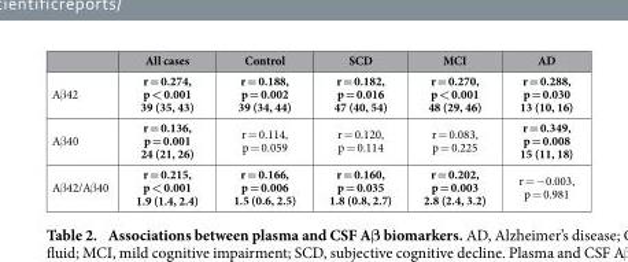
<table><thead><tr><td></td><td>All cases</td><td>Control</td><td>SCD</td><td>MCI</td><td>AD</td></tr></thead><tbody><tr><td>Aβ 42</td><td>r = 0.274, p &lt; 0.001 39 (35, 43)</td><td>r = 0.188, p = 0.002 39 (34, 44)</td><td>r = 0.182, p = 0.016 47 (40, 54)</td><td>r = 0.270, p &lt; 0.001 48 (29, 46)</td><td>r = 0.288, p = 0.030 13 (10, 16)</td></tr><tr><td>Aβ 40</td><td>r = 0.136, p = 0.001 24 (21, 26)</td><td>r = 0.114, p = 0.059</td><td>r = 0.120, p = 0.114</td><td>r = 0.083, p = 0.225</td><td>r = 0.349, p = 0.008 15 (11, 18)</td></tr><tr><td>Aβ 42/Aβ 40</td><td>r = 0.215, p &lt; 0.001 1.9 (1.4, 2.4)</td><td>r = 0.166, p = 0.006 1.5 (0.6, 2.5)</td><td>r = 0.160, p = 0.035 1.8 (0.8, 2.7)</td><td>r = 0.202, p = 0.003 2.8 (2.4, 3.2)</td><td>r = − 0.003, p = 0.981</td></tr></tbody></table>